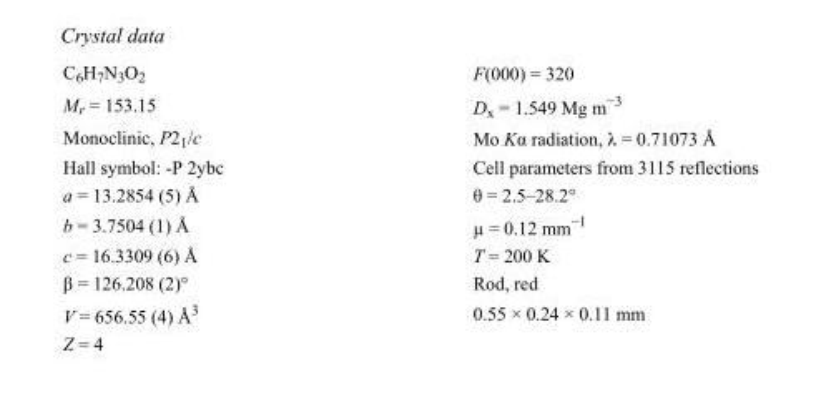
<table><tbody><tr><td>C<sub>6</sub>H<sub>7</sub>N<sub>3</sub>O<sub>2</sub></td><td>F(000) = 320</td></tr><tr><td>M<sub>r</sub> = 153.15</td><td>D<sub>x</sub> = 1.549 Mg m<sup>−3</sup></td></tr><tr><td>Monoclinic, P2<sub>1</sub>/c</td><td>Mo Kα radiation, λ = 0.71073 Å</td></tr><tr><td>Hall symbol: -P 2ybc</td><td>Cell parameters from 3115 reflections</td></tr><tr><td>a = 13.2854 (5) Å</td><td>θ = 2.5–28.2°</td></tr><tr><td>b = 3.7504 (1) Å</td><td>µ = 0.12 mm<sup>−1</sup></td></tr><tr><td>c = 16.3309 (6) Å</td><td>T = 200 K</td></tr><tr><td>β = 126.208 (2)°</td><td>Rod, red</td></tr><tr><td>V = 656.55 (4) Å<sup>3</sup></td><td>0.55 × 0.24 × 0.11 mm</td></tr><tr><td>Z = 4</td><td></td></tr></tbody></table>